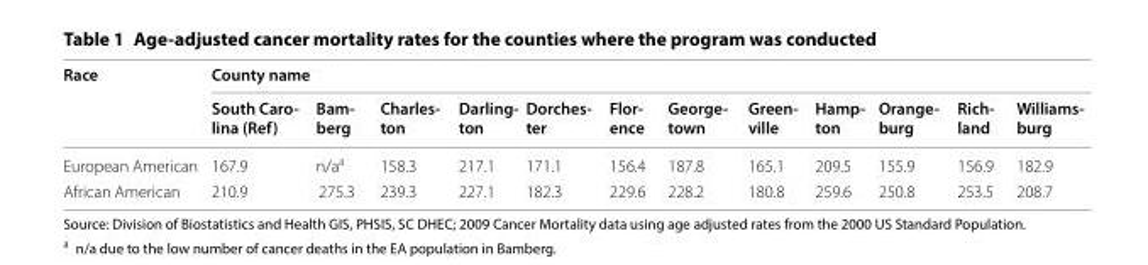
<table><thead><tr><td rowspan="2">Race</td><td colspan="12">County name</td></tr><tr><td>South Caro- lina (Ref)</td><td>Bam- berg</td><td>Charles- ton</td><td>Darling- ton</td><td>Dorches- ter</td><td>Flor- ence</td><td>George- town</td><td>Green- ville</td><td>Hamp- ton</td><td>Orange- burg</td><td>Rich- land</td><td>Williams- burg</td></tr></thead><tbody><tr><td>European American</td><td>167.9</td><td>n/a<sup>a</sup></td><td>158.3</td><td>217.1</td><td>171.1</td><td>156.4</td><td>187.8</td><td>165.1</td><td>209.5</td><td>155.9</td><td>156.9</td><td>182.9</td></tr><tr><td>African American</td><td>210.9</td><td>275.3</td><td>239.3</td><td>227.1</td><td>182.3</td><td>229.6</td><td>228.2</td><td>180.8</td><td>259.6</td><td>250.8</td><td>253.5</td><td>208.7</td></tr></tbody></table>